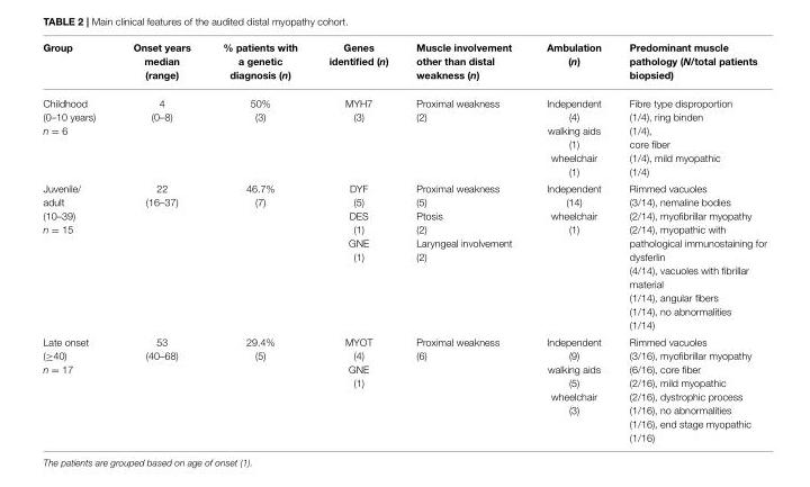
<table><thead><tr><td>Group</td><td>Onset years median (range)</td><td>% patients with a genetic diagnosis (n)</td><td>Genes identified (n)</td><td>Muscle involvement other than distal weakness (n)</td><td>Ambulation (n)</td><td>Predominant muscle pathology (N/total patients biopsied)</td></tr></thead><tbody><tr><td>Childhood (0–10 years) n = 6</td><td>4 (0–8)</td><td>50% (3)</td><td>MYH7 (3)</td><td>Proximal weakness (2)</td><td>Independent (4) walking aids (1) wheelchair (1)</td><td>Fibre type disproportion (1/4), ring binden (1/4), core fiber (1/4), mild myopathic (1/4)</td></tr><tr><td>Juvenile/ adult (10–39) n = 15</td><td>22 (16–37)</td><td>46.7% (7)</td><td>DYF (5) DES (1) GNE (1)</td><td>Proximal weakness (5) Ptosis (2) Laryngeal involvement (2)</td><td>Independent (14) wheelchair (1)</td><td>Rimmed vacuoles (3/14), nemaline bodies (2/14), myofibrillar myopathy (2/14), myopathic with pathological immunostaining for dysferlin (4/14), vacuoles with fibrillar material (1/14), angular fibers (1/14), no abnormalities (1/14)</td></tr><tr><td>Late onset (≥40) n = 17</td><td>53 (40–68)</td><td>29.4% (5)</td><td>MYOT (4) GNE (1)</td><td>Proximal weakness (6)</td><td>Independent (9) walking aids (5) wheelchair (3)</td><td>Rimmed vacuoles (3/16), myofibrillar myopathy (6/16), core fiber (2/16), mild myopathic (2/16), dystrophic process (1/16), no abnormalities (1/16), end stage myopathic (1/16)</td></tr></tbody></table>